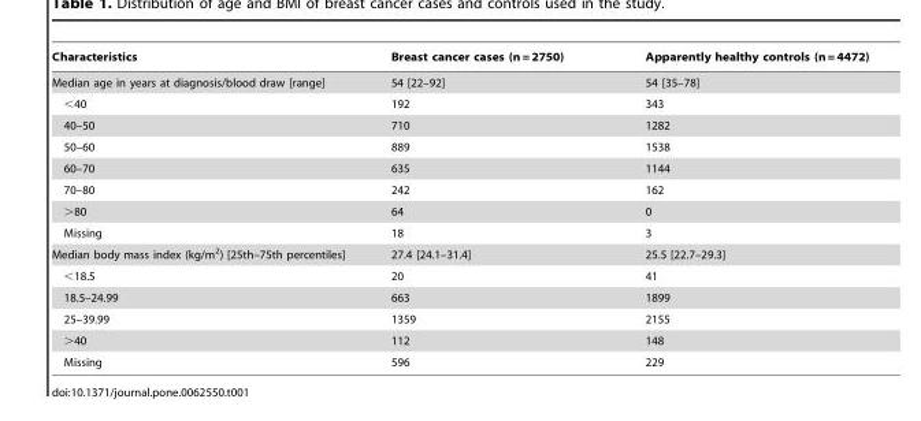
<table><thead><tr><td>Characteristics</td><td>Breast cancer cases (n = 2750)</td><td>Apparently healthy controls (n = 4472)</td></tr></thead><tbody><tr><td>Median age in years at diagnosis/blood draw [range]</td><td>54 [22–92]</td><td>54 [35–78]</td></tr><tr><td>&lt;40</td><td>192</td><td>343</td></tr><tr><td>40–50</td><td>710</td><td>1282</td></tr><tr><td>50–60</td><td>889</td><td>1538</td></tr><tr><td>60–70</td><td>635</td><td>1144</td></tr><tr><td>70–80</td><td>242</td><td>162</td></tr><tr><td>&gt;80</td><td>64</td><td>0</td></tr><tr><td>Missing</td><td>18</td><td>3</td></tr><tr><td>Median body mass index (kg/m<sup>2</sup>) [25th–75th percentiles]</td><td>27.4 [24.1–31.4]</td><td>25.5 [22.7–29.3]</td></tr><tr><td>&lt;18.5</td><td>20</td><td>41</td></tr><tr><td>18.5–24.99</td><td>663</td><td>1899</td></tr><tr><td>25–39.99</td><td>1359</td><td>2155</td></tr><tr><td>&gt;40</td><td>112</td><td>148</td></tr><tr><td>Missing</td><td>596</td><td>229</td></tr></tbody></table>